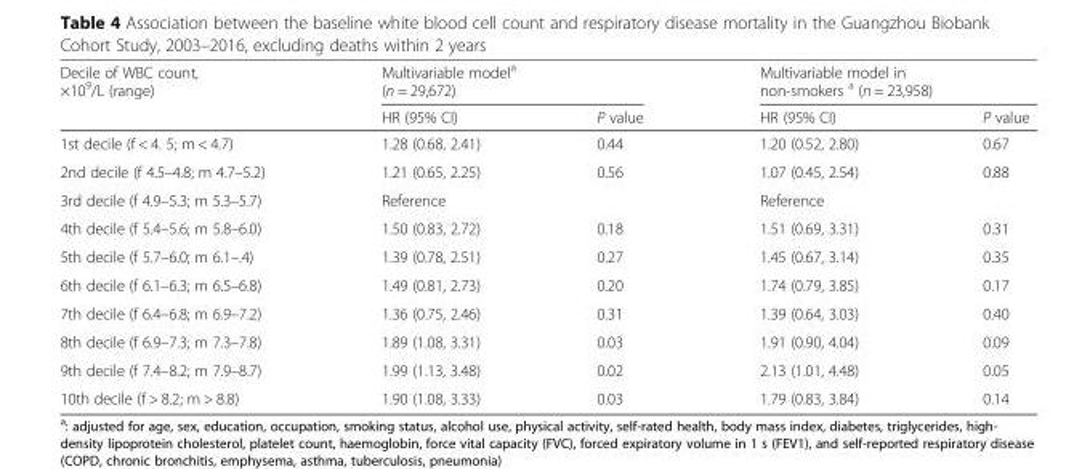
<table><thead><tr><td rowspan="2">Decile of WBC count, ×10<sup>9</sup>/L (range)</td><td colspan="2">Multivariable model<sup>a</sup> (n = 29,672)</td><td colspan="2">Multivariable model in non-smokers <sup>a</sup> (n = 23,958)</td></tr><tr><td>HR (95% CI)</td><td>P value</td><td>HR (95% CI)</td><td>P value</td></tr></thead><tbody><tr><td>1st decile (f &lt; 4. 5; m &lt; 4.7)</td><td>1.28 (0.68, 2.41)</td><td>0.44</td><td>1.20 (0.52, 2.80)</td><td>0.67</td></tr><tr><td>2nd decile (f 4.5–4.8; m 4.7–5.2)</td><td>1.21 (0.65, 2.25)</td><td>0.56</td><td>1.07 (0.45, 2.54)</td><td>0.88</td></tr><tr><td>3rd decile (f 4.9–5.3; m 5.3–5.7)</td><td>Reference</td><td></td><td>Reference</td><td></td></tr><tr><td>4th decile (f 5.4–5.6; m 5.8–6.0)</td><td>1.50 (0.83, 2.72)</td><td>0.18</td><td>1.51 (0.69, 3.31)</td><td>0.31</td></tr><tr><td>5th decile (f 5.7–6.0; m 6.1–.4)</td><td>1.39 (0.78, 2.51)</td><td>0.27</td><td>1.45 (0.67, 3.14)</td><td>0.35</td></tr><tr><td>6th decile (f 6.1–6.3; m 6.5–6.8)</td><td>1.49 (0.81, 2.73)</td><td>0.20</td><td>1.74 (0.79, 3.85)</td><td>0.17</td></tr><tr><td>7th decile (f 6.4–6.8; m 6.9–7.2)</td><td>1.36 (0.75, 2.46)</td><td>0.31</td><td>1.39 (0.64, 3.03)</td><td>0.40</td></tr><tr><td>8th decile (f 6.9–7.3; m 7.3–7.8)</td><td>1.89 (1.08, 3.31)</td><td>0.03</td><td>1.91 (0.90, 4.04)</td><td>0.09</td></tr><tr><td>9th decile (f 7.4–8.2; m 7.9–8.7)</td><td>1.99 (1.13, 3.48)</td><td>0.02</td><td>2.13 (1.01, 4.48)</td><td>0.05</td></tr><tr><td>10th decile (f &gt; 8.2; m &gt; 8.8)</td><td>1.90 (1.08, 3.33)</td><td>0.03</td><td>1.79 (0.83, 3.84)</td><td>0.14</td></tr></tbody></table>